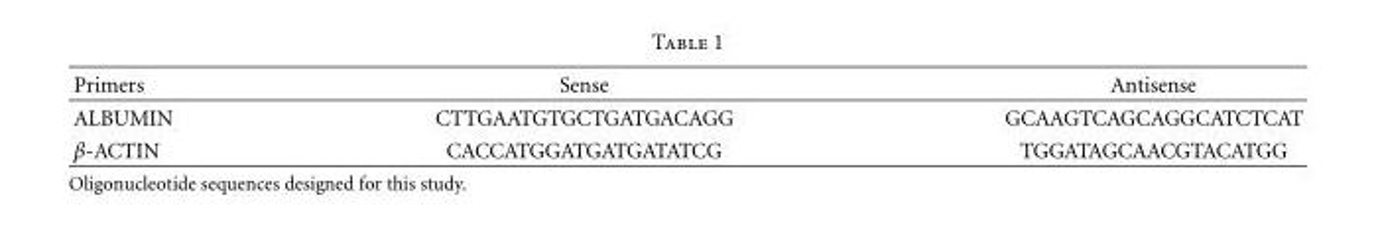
<table><thead><tr><td>Primers</td><td>Sense</td><td>Antisense</td></tr></thead><tbody><tr><td>ALBUMIN</td><td>CTTGAATGTGCTGATGACAGG</td><td>GCAAGTCAGCAGGCATCTCAT</td></tr><tr><td>β-ACTIN</td><td>CACCATGGATGATGATATCG</td><td>TGGATAGCAACGTACATGG</td></tr></tbody></table>